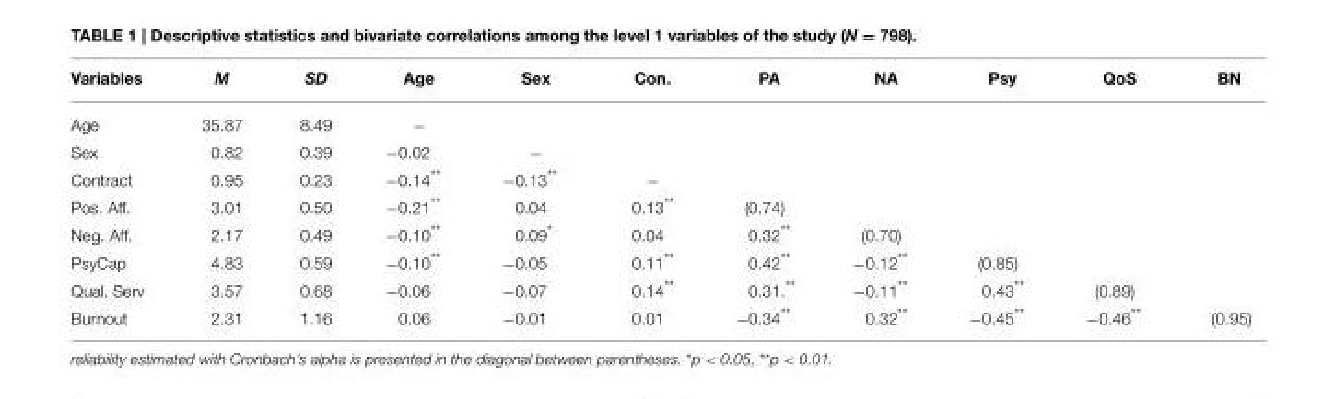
<table><thead><tr><td>Variables</td><td>M</td><td>SD</td><td>Age</td><td>Sex</td><td>Con.</td><td>PA</td><td>NA</td><td>Psy</td><td>QoS</td><td>BN</td></tr></thead><tbody><tr><td>Age</td><td>35.87</td><td>8.49</td><td>−</td><td></td><td></td><td></td><td></td><td></td><td></td><td></td></tr><tr><td>Sex</td><td>0.82</td><td>0.39</td><td>−0.02</td><td>−</td><td></td><td></td><td></td><td></td><td></td><td></td></tr><tr><td>Contract</td><td>0.95</td><td>0.23</td><td>−0.14**</td><td>−0.13**</td><td>−</td><td></td><td></td><td></td><td></td><td></td></tr><tr><td>Pos. Aff.</td><td>3.01</td><td>0.50</td><td>−0.21**</td><td>0.04</td><td>0.13**</td><td>(0.74)</td><td></td><td></td><td></td><td></td></tr><tr><td>Neg. Aff.</td><td>2.17</td><td>0.49</td><td>−0.10**</td><td>0.09*</td><td>0.04</td><td>0.32**</td><td>(0.70)</td><td></td><td></td><td></td></tr><tr><td>PsyCap</td><td>4.83</td><td>0.59</td><td>−0.10**</td><td>−0.05</td><td>0.11**</td><td>0.42**</td><td>−0.12**</td><td>(0.85)</td><td></td><td></td></tr><tr><td>Qual. Serv</td><td>3.57</td><td>0.68</td><td>−0.06</td><td>−0.07</td><td>0.14**</td><td>0.31.**</td><td>−0.11**</td><td>0.43**</td><td>(0.89)</td><td></td></tr><tr><td>Burnout</td><td>2.31</td><td>1.16</td><td>0.06</td><td>−0.01</td><td>0.01</td><td>−0.34**</td><td>0.32**</td><td>−0.45**</td><td>−0.46**</td><td>(0.95)</td></tr></tbody></table>